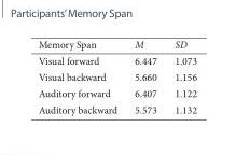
<table><thead><tr><td>Memory Span</td><td>M</td><td>SD</td></tr></thead><tbody><tr><td>Visual forward</td><td>6.447</td><td>1.073</td></tr><tr><td>Visual backward</td><td>5.660</td><td>1.156</td></tr><tr><td>Auditory forward</td><td>6.407</td><td>1.122</td></tr><tr><td>Auditory backward</td><td>5.573</td><td>1.132</td></tr></tbody></table>